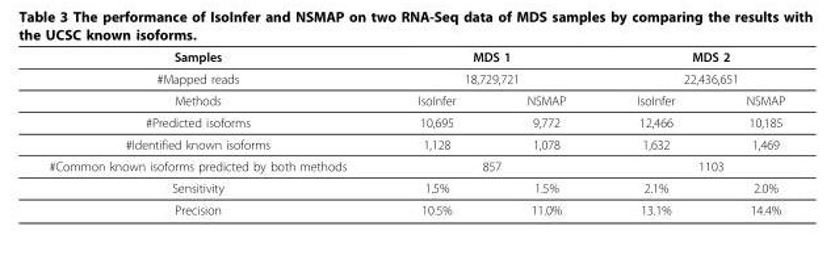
<table><thead><tr><td rowspan="3">Samples #Mapped reads Methods</td><td rowspan="2" colspan="2">MDS 1 18,729,721</td><td rowspan="2" colspan="2">MDS 2 22,436,651</td></tr><tr></tr><tr><td>IsoInfer</td><td>NSMAP</td><td>IsoInfer</td><td>NSMAP</td></tr></thead><tbody><tr><td>#Predicted isoforms</td><td>10,695</td><td>9,772</td><td>12,466</td><td>10,185</td></tr><tr><td>#Identified known isoforms</td><td>1,128</td><td>1,078</td><td>1,632</td><td>1,469</td></tr><tr><td>#Common known isoforms predicted by both methods</td><td colspan="2">857</td><td colspan="2">1103</td></tr><tr><td>Sensitivity</td><td>1.5%</td><td>1.5%</td><td>2.1%</td><td>2.0%</td></tr><tr><td>Precision</td><td>10.5%</td><td>11.0%</td><td>13.1%</td><td>14.4%</td></tr></tbody></table>